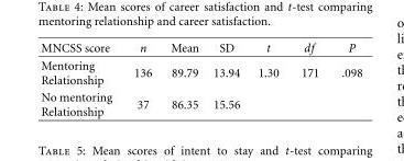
<table><thead><tr><td>MNCSS score</td><td>n</td><td>Mean</td><td>SD</td><td>t</td><td>df</td><td>P</td></tr></thead><tbody><tr><td>Mentoring Relationship</td><td>136</td><td>89.79</td><td>13.94</td><td>1.30</td><td>171</td><td>.098</td></tr><tr><td>No mentoring Relationship</td><td>37</td><td>86.35</td><td>15.56</td><td></td><td></td><td></td></tr></tbody></table>